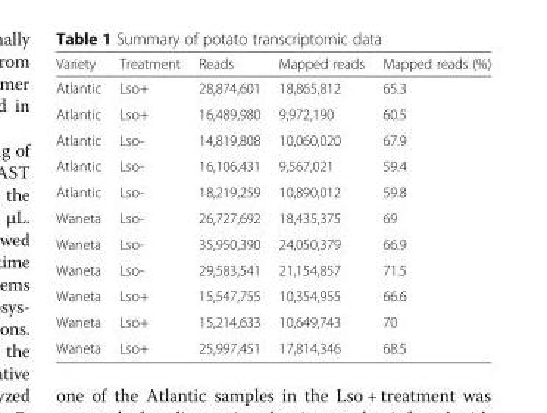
<table><thead><tr><td>Variety</td><td>Treatment</td><td>Reads</td><td>Mapped reads</td><td>Mapped reads (%)</td></tr></thead><tbody><tr><td>Atlantic</td><td>Lso+</td><td>28,874,601</td><td>18,865,812</td><td>65.3</td></tr><tr><td>Atlantic</td><td>Lso+</td><td>16,489,980</td><td>9,972,190</td><td>60.5</td></tr><tr><td>Atlantic</td><td>Lso-</td><td>14,819,808</td><td>10,060,020</td><td>67.9</td></tr><tr><td>Atlantic</td><td>Lso-</td><td>16,106,431</td><td>9,567,021</td><td>59.4</td></tr><tr><td>Atlantic</td><td>Lso-</td><td>18,219,259</td><td>10,890,012</td><td>59.8</td></tr><tr><td>Waneta</td><td>Lso-</td><td>26,727,692</td><td>18,435,375</td><td>69</td></tr><tr><td>Waneta</td><td>Lso-</td><td>35,950,390</td><td>24,050,379</td><td>66.9</td></tr><tr><td>Waneta</td><td>Lso-</td><td>29,583,541</td><td>21,154,857</td><td>71.5</td></tr><tr><td>Waneta</td><td>Lso+</td><td>15,547,755</td><td>10,354,955</td><td>66.6</td></tr><tr><td>Waneta</td><td>Lso+</td><td>15,214,633</td><td>10,649,743</td><td>70</td></tr><tr><td>Waneta</td><td>Lso+</td><td>25,997,451</td><td>17,814,346</td><td>68.5</td></tr></tbody></table>